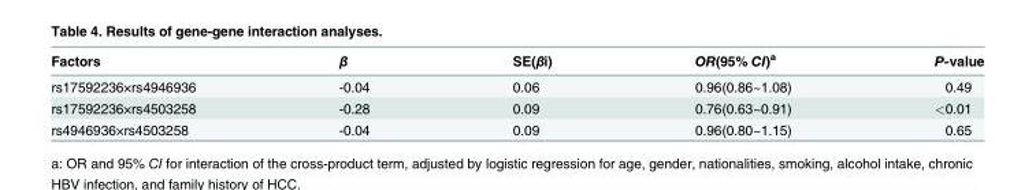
<table><thead><tr><td>Factors</td><td>β</td><td>SE(βi)</td><td>OR(95% CI)<sup>a</sup></td><td>P-value</td></tr></thead><tbody><tr><td>rs17592236×rs4946936</td><td>-0.04</td><td>0.06</td><td>0.96(0.86~1.08)</td><td>0.49</td></tr><tr><td>rs17592236×rs4503258</td><td>-0.28</td><td>0.09</td><td>0.76(0.63~0.91)</td><td>&lt;0.01</td></tr><tr><td>rs4946936×rs4503258</td><td>-0.04</td><td>0.09</td><td>0.96(0.80~1.15)</td><td>0.65</td></tr></tbody></table>